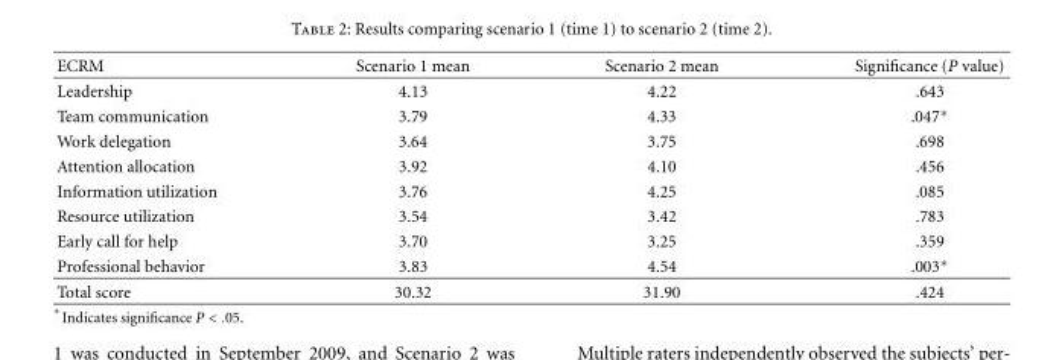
<table><thead><tr><td>ECRM</td><td>Scenario 1 mean</td><td>Scenario 2 mean</td><td>Significance (P value)</td></tr></thead><tbody><tr><td>Leadership</td><td>4.13</td><td>4.22</td><td>.643</td></tr><tr><td>Team communication</td><td>3.79</td><td>4.33</td><td>.047∗</td></tr><tr><td>Work delegation</td><td>3.64</td><td>3.75</td><td>.698</td></tr><tr><td>Attention allocation</td><td>3.92</td><td>4.10</td><td>.456</td></tr><tr><td>Information utilization</td><td>3.76</td><td>4.25</td><td>.085</td></tr><tr><td>Resource utilization</td><td>3.54</td><td>3.42</td><td>.783</td></tr><tr><td>Early call for help</td><td>3.70</td><td>3.25</td><td>.359</td></tr><tr><td>Professional behavior</td><td>3.83</td><td>4.54</td><td>.003∗</td></tr><tr><td>Total score</td><td>30.32</td><td>31.90</td><td>.424</td></tr></tbody></table>